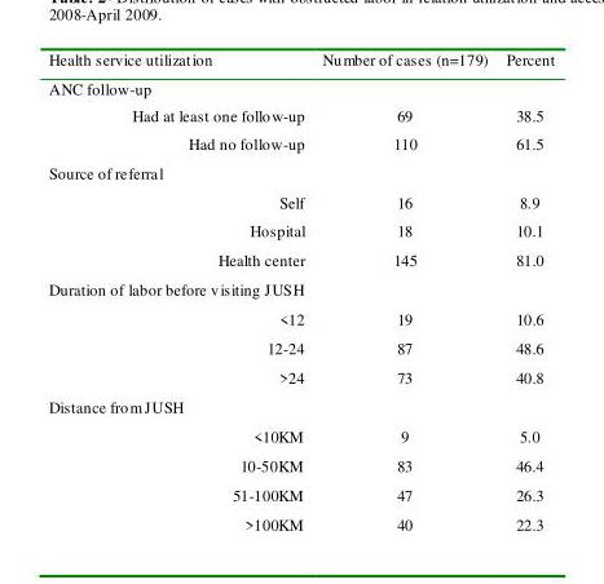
<table><thead><tr><td>Health service utilization</td><td>Number of cases (n=179)</td><td>Percent</td></tr></thead><tbody><tr><td colspan="3">ANC follow-up</td></tr><tr><td>Had at least one follow-up</td><td>69</td><td>38.5</td></tr><tr><td>Had no follow-up</td><td>110</td><td>61.5</td></tr><tr><td colspan="3">Source of referral</td></tr><tr><td>Self</td><td>16</td><td>8.9</td></tr><tr><td>Hospital</td><td>18</td><td>10.1</td></tr><tr><td>Health center</td><td>145</td><td>81.0</td></tr><tr><td colspan="3">Duration of labor before visiting JUSH</td></tr><tr><td>&lt;12</td><td>19</td><td>10.6</td></tr><tr><td>12-24</td><td>87</td><td>48.6</td></tr><tr><td>&gt;24</td><td>73</td><td>40.8</td></tr><tr><td colspan="3">Distance from JUSH</td></tr><tr><td>&lt;10KM</td><td>9</td><td>5.0</td></tr><tr><td>10-50KM</td><td>83</td><td>46.4</td></tr><tr><td>51-100KM</td><td>47</td><td>26.3</td></tr><tr><td>&gt;100KM</td><td>40</td><td>22.3</td></tr></tbody></table>